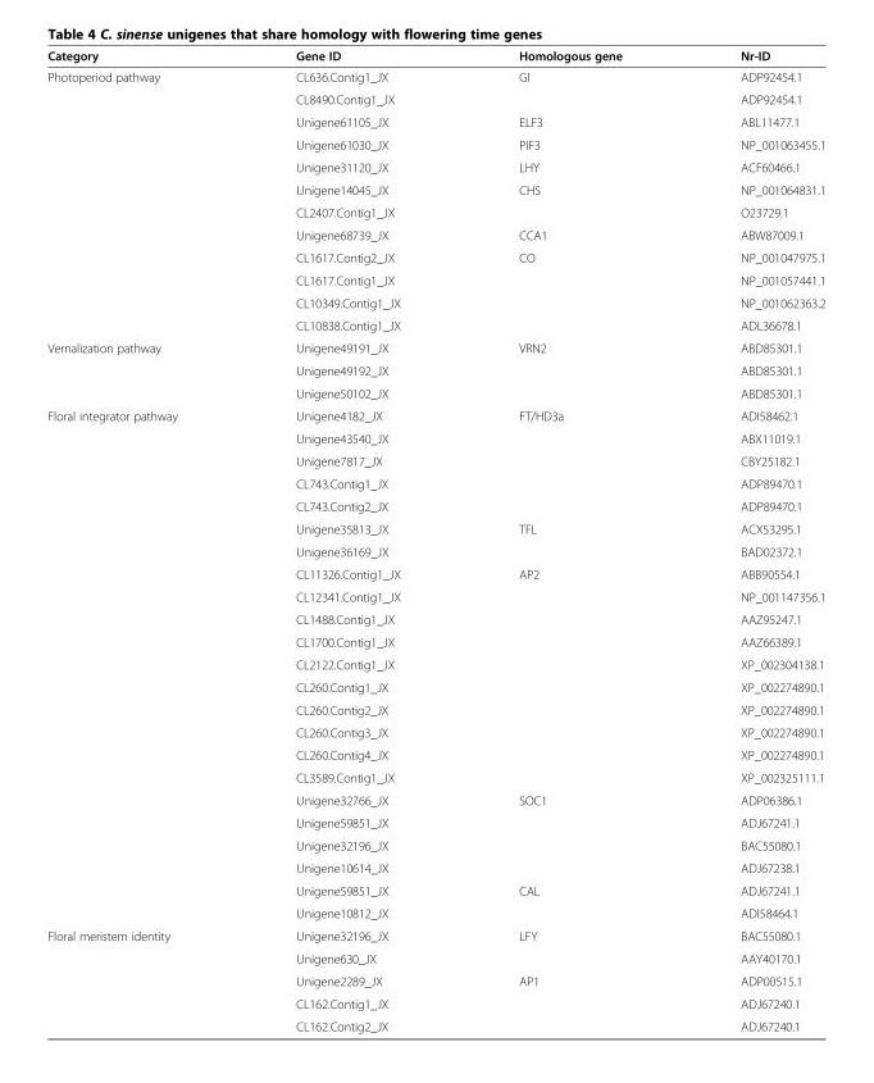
<table><thead><tr><td>Category</td><td>Gene ID</td><td>Homologous gene</td><td>Nr-ID</td></tr></thead><tbody><tr><td rowspan="12">Photoperiod pathway</td><td>CL636.Contig1_JX</td><td rowspan="2">GI</td><td>ADP92454.1</td></tr><tr><td>CL8490.Contig1_JX</td><td>ADP92454.1</td></tr><tr><td>Unigene61105_JX</td><td>ELF3</td><td>ABL11477.1</td></tr><tr><td>Unigene61030_JX</td><td>PIF3</td><td>NP_001063455.1</td></tr><tr><td>Unigene31120_JX</td><td>LHY</td><td>ACF60466.1</td></tr><tr><td>Unigene14045_JX</td><td rowspan="2">CHS</td><td>NP_001064831.1</td></tr><tr><td>CL2407.Contig1_JX</td><td>O23729.1</td></tr><tr><td>Unigene68739_JX</td><td>CCA1</td><td>ABW87009.1</td></tr><tr><td>CL1617.Contig2_JX</td><td rowspan="4">CO</td><td>NP_001047975.1</td></tr><tr><td>CL1617.Contig1_JX</td><td>NP_001057441.1</td></tr><tr><td>CL10349.Contig1_JX</td><td>NP_001062363.2</td></tr><tr><td>CL10838.Contig1_JX</td><td>ADL36678.1</td></tr><tr><td rowspan="3">Vernalization pathway</td><td>Unigene49191_JX</td><td rowspan="3">VRN2</td><td>ABD85301.1</td></tr><tr><td>Unigene49192_JX</td><td>ABD85301.1</td></tr><tr><td>Unigene50102_JX</td><td>ABD85301.1</td></tr><tr><td rowspan="23">Floral integrator pathway</td><td>Unigene4182_JX</td><td rowspan="5">FT/HD3a</td><td>ADI58462.1</td></tr><tr><td>Unigene43540_JX</td><td>ABX11019.1</td></tr><tr><td>Unigene7817_JX</td><td>CBY25182.1</td></tr><tr><td>CL743.Contig1_JX</td><td>ADP89470.1</td></tr><tr><td>CL743.Contig2_JX</td><td>ADP89470.1</td></tr><tr><td>Unigene35813_JX</td><td rowspan="2">TFL</td><td>ACX53295.1</td></tr><tr><td>Unigene36169_JX</td><td>BAD02372.1</td></tr><tr><td>CL11326.Contig1_JX</td><td rowspan="10">AP2</td><td>ABB90554.1</td></tr><tr><td>CL12341.Contig1_JX</td><td>NP_001147356.1</td></tr><tr><td>CL1488.Contig1_JX</td><td>AAZ95247.1</td></tr><tr><td>CL1700.Contig1_JX</td><td>AAZ66389.1</td></tr><tr><td>CL2122.Contig1_JX</td><td>XP_002304138.1</td></tr><tr><td>CL260.Contig1_JX</td><td>XP_002274890.1</td></tr><tr><td>CL260.Contig2_JX</td><td>XP_002274890.1</td></tr><tr><td>CL260.Contig3_JX</td><td>XP_002274890.1</td></tr><tr><td>CL260.Contig4_JX</td><td>XP_002274890.1</td></tr><tr><td>CL3589.Contig1_JX</td><td>XP_002325111.1</td></tr><tr><td>Unigene32766_JX</td><td rowspan="4">SOC1</td><td>ADP06386.1</td></tr><tr><td>Unigene59851_JX</td><td>ADJ67241.1</td></tr><tr><td>Unigene32196_JX</td><td>BAC55080.1</td></tr><tr><td>Unigene10614_JX</td><td>ADJ67238.1</td></tr><tr><td>Unigene59851_JX</td><td rowspan="2">CAL</td><td>ADJ67241.1</td></tr><tr><td>Unigene10812_JX</td><td>ADI58464.1</td></tr><tr><td rowspan="5">Floral meristem identity</td><td>Unigene32196_JX</td><td rowspan="2">LFY</td><td>BAC55080.1</td></tr><tr><td>Unigene630_JX</td><td>AAY40170.1</td></tr><tr><td>Unigene2289_JX</td><td rowspan="2">AP1</td><td>ADP00515.1</td></tr><tr><td>CL162.Contig1_JX</td><td>ADJ67240.1</td></tr><tr><td>CL162.Contig2_JX</td><td></td><td>ADJ67240.1</td></tr></tbody></table>